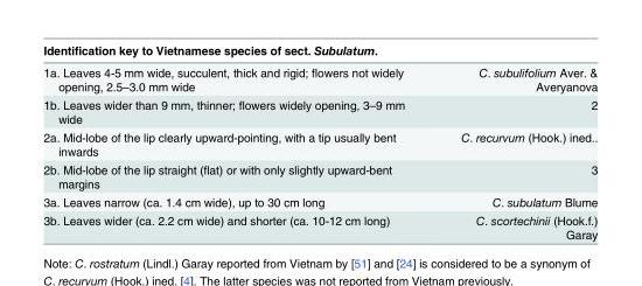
<table><thead><tr><td>Identification key to Vietnamese species of sect. Subulatum.</td><td></td></tr></thead><tbody><tr><td>1a. Leaves 4-5 mm wide, succulent, thick and rigid; flowers not widely opening, 2.5–3.0 mm wide</td><td>C. subulifolium Aver. &amp; Averyanova</td></tr><tr><td>1b. Leaves wider than 9 mm, thinner; flowers widely opening, 3–9 mm wide</td><td>2</td></tr><tr><td>2a. Mid-lobe of the lip clearly upward-pointing, with a tip usually bent inwards</td><td>C. recurvum (Hook.) ined..</td></tr><tr><td>2b. Mid-lobe of the lip straight (flat) or with only slightly upward-bent margins</td><td>3</td></tr><tr><td>3a. Leaves narrow (ca. 1.4 cm wide), up to 30 cm long</td><td>C. subulatum Blume</td></tr><tr><td>3b. Leaves wider (ca. 2.2 cm wide) and shorter (ca. 10-12 cm long)</td><td>C. scortechinii (Hook.f.) Garay</td></tr></tbody></table>